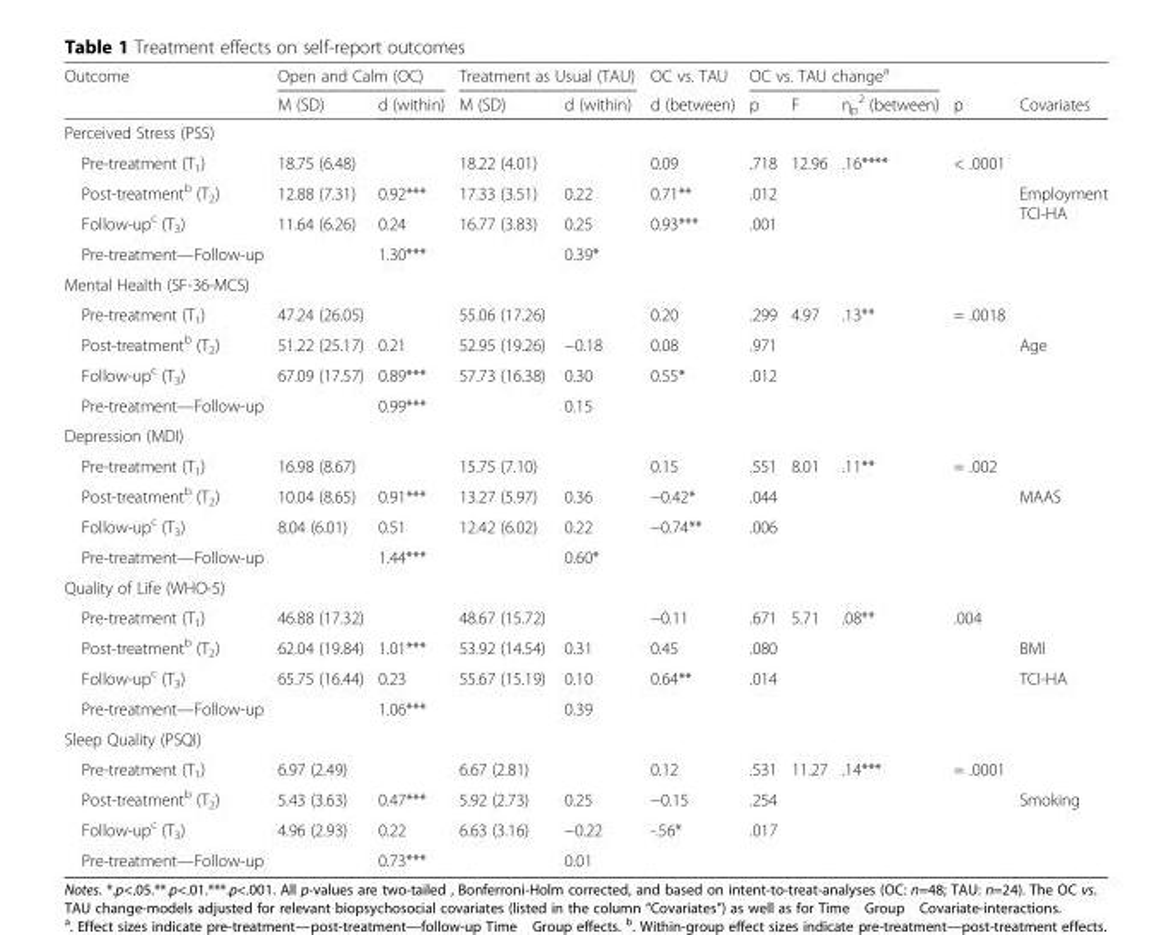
<table><thead><tr><td rowspan="2">Outcome</td><td colspan="2">Open and Calm (OC)</td><td colspan="2">Treatment as Usual (TAU)</td><td rowspan="2">OC vs. TAU d (between)</td><td colspan="3">OC vs. TAU change<sup>a</sup></td><td rowspan="2">p</td><td rowspan="2">Covariates</td></tr><tr><td>M (SD)</td><td>d (within)</td><td>M (SD)</td><td>d (within)</td><td>p</td><td>F</td><td>η<sub>p</sub> <sup>2</sup> (between)</td></tr></thead><tbody><tr><td colspan="11">Perceived Stress (PSS)</td></tr><tr><td>Pre-treatment (T<sub>1</sub>)</td><td>18.75 (6.48)</td><td></td><td>18.22 (4.01)</td><td></td><td>0.09</td><td>.718</td><td rowspan="3">12.96</td><td rowspan="3">.16****</td><td rowspan="3">&lt; .0001</td><td></td></tr><tr><td>Post-treatment<sup>b</sup> (T<sub>2</sub>)</td><td>12.88 (7.31)</td><td>0.92***</td><td>17.33 (3.51)</td><td>0.22</td><td>0.71**</td><td>.012</td><td rowspan="2">Employment TCI-HA</td></tr><tr><td>Follow-up<sup>c</sup> (T<sub>3</sub>)</td><td>11.64 (6.26)</td><td>0.24</td><td>16.77 (3.83)</td><td>0.25</td><td>0.93***</td><td>.001</td></tr><tr><td>Pre-treatment—Follow-up</td><td></td><td>1.30***</td><td></td><td>0.39*</td><td></td><td></td><td></td><td></td><td></td><td></td></tr><tr><td colspan="11">Mental Health (SF-36-MCS)</td></tr><tr><td>Pre-treatment (T<sub>1</sub>)</td><td>47.24 (26.05)</td><td></td><td>55.06 (17.26)</td><td></td><td>0.20</td><td>.299</td><td rowspan="3">4.97</td><td rowspan="3">.13**</td><td rowspan="3">= .0018</td><td></td></tr><tr><td>Post-treatment<sup>b</sup> (T<sub>2</sub>)</td><td>51.22 (25.17)</td><td>0.21</td><td>52.95 (19.26)</td><td>−0.18</td><td>0.08</td><td>.971</td><td>Age</td></tr><tr><td>Follow-up<sup>c</sup> (T<sub>3</sub>)</td><td>67.09 (17.57)</td><td>0.89***</td><td>57.73 (16.38)</td><td>0.30</td><td>0.55*</td><td>.012</td><td></td></tr><tr><td>Pre-treatment—Follow-up</td><td></td><td>0.99***</td><td></td><td>0.15</td><td></td><td></td><td></td><td></td><td></td><td></td></tr><tr><td colspan="11">Depression (MDI)</td></tr><tr><td>Pre-treatment (T<sub>1</sub>)</td><td>16.98 (8.67)</td><td></td><td>15.75 (7.10)</td><td></td><td>0.15</td><td>.551</td><td rowspan="3">8.01</td><td rowspan="3">.11**</td><td rowspan="3">= .002</td><td></td></tr><tr><td>Post-treatment<sup>b</sup> (T<sub>2</sub>)</td><td>10.04 (8.65)</td><td>0.91***</td><td>13.27 (5.97)</td><td>0.36</td><td>−0.42*</td><td>.044</td><td>MAAS</td></tr><tr><td>Follow-up<sup>c</sup> (T<sub>3</sub>)</td><td>8.04 (6.01)</td><td>0.51</td><td>12.42 (6.02)</td><td>0.22</td><td>−0.74**</td><td>.006</td><td></td></tr><tr><td>Pre-treatment—Follow-up</td><td></td><td>1.44***</td><td></td><td>0.60*</td><td></td><td></td><td></td><td></td><td></td><td></td></tr><tr><td colspan="11">Quality of Life (WHO-5)</td></tr><tr><td>Pre-treatment (T<sub>1</sub>)</td><td>46.88 (17.32)</td><td></td><td>48.67 (15.72)</td><td></td><td>−0.11</td><td>.671</td><td rowspan="3">5.71</td><td rowspan="3">.08**</td><td rowspan="3">.004</td><td></td></tr><tr><td>Post-treatment<sup>b</sup> (T<sub>2</sub>)</td><td>62.04 (19.84)</td><td>1.01***</td><td>53.92 (14.54)</td><td>0.31</td><td>0.45</td><td>.080</td><td>BMI</td></tr><tr><td>Follow-up<sup>c</sup> (T<sub>3</sub>)</td><td>65.75 (16.44)</td><td>0.23</td><td>55.67 (15.19)</td><td>0.10</td><td>0.64**</td><td>.014</td><td>TCI-HA</td></tr><tr><td>Pre-treatment—Follow-up</td><td></td><td>1.06***</td><td></td><td>0.39</td><td></td><td></td><td></td><td></td><td></td><td></td></tr><tr><td colspan="11">Sleep Quality (PSQI)</td></tr><tr><td>Pre-treatment (T<sub>1</sub>)</td><td>6.97 (2.49)</td><td></td><td>6.67 (2.81)</td><td></td><td>0.12</td><td>.531</td><td rowspan="3">11.27</td><td rowspan="3">.14***</td><td rowspan="3">= .0001</td><td></td></tr><tr><td>Post-treatment<sup>b</sup> (T<sub>2</sub>)</td><td>5.43 (3.63)</td><td>0.47***</td><td>5.92 (2.73)</td><td>0.25</td><td>−0.15</td><td>.254</td><td>Smoking</td></tr><tr><td>Follow-up<sup>c</sup> (T<sub>3</sub>)</td><td>4.96 (2.93)</td><td>0.22</td><td>6.63 (3.16)</td><td>−0.22</td><td>-.56*</td><td>.017</td><td></td></tr><tr><td>Pre-treatment—Follow-up</td><td></td><td>0.73***</td><td></td><td>0.01</td><td></td><td></td><td></td><td></td><td></td><td></td></tr></tbody></table>